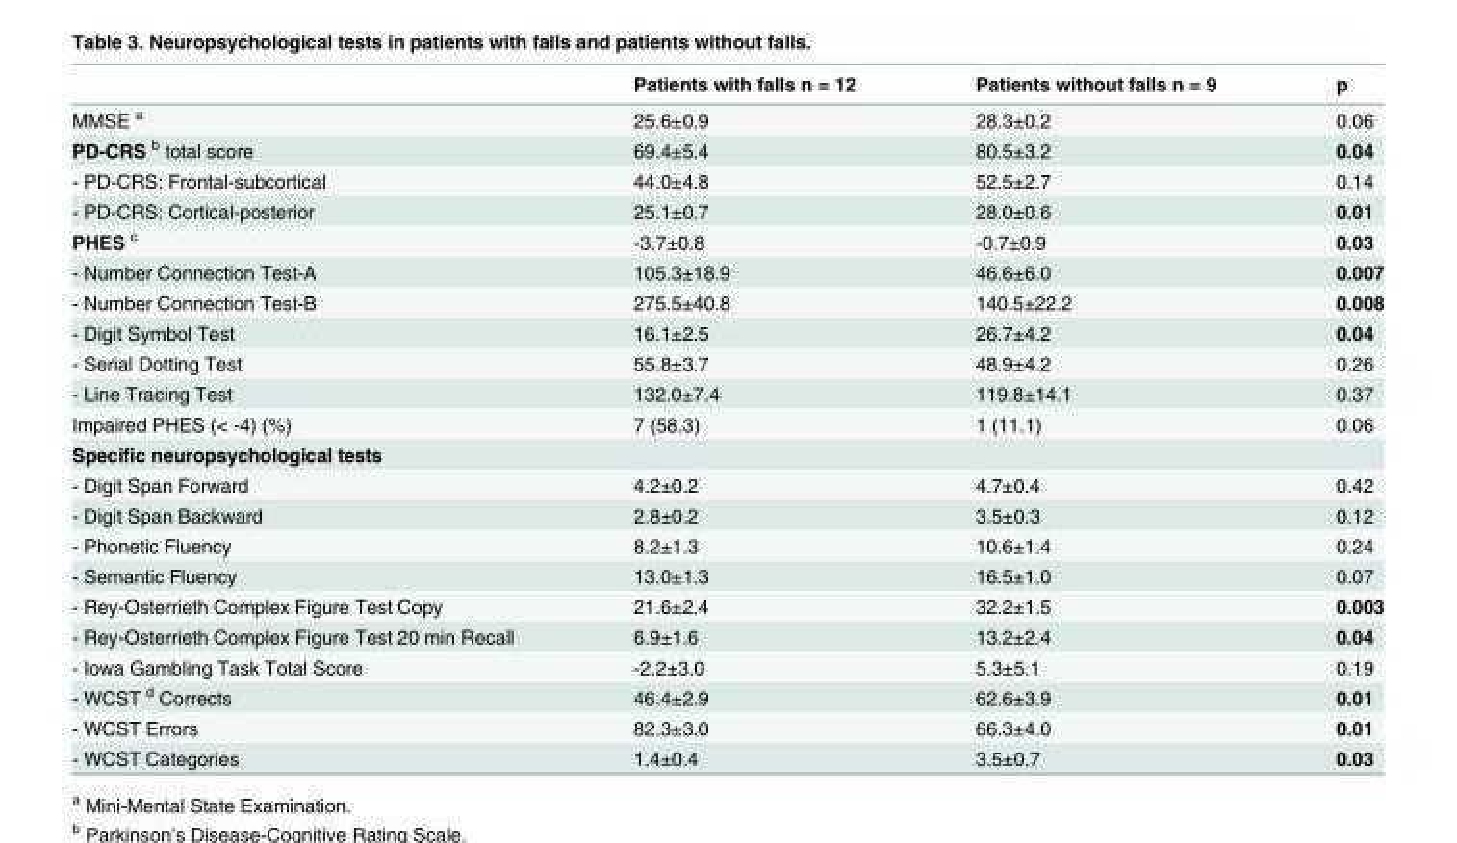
<table><thead><tr><td></td><td>Patients with falls n = 12</td><td>Patients without falls n = 9</td><td>p</td></tr></thead><tbody><tr><td>MMSE <sup>a</sup></td><td>25.6±0.9</td><td>28.3±0.2</td><td>0.06</td></tr><tr><td>PD-CRS <sup>b</sup> total score</td><td>69.4±5.4</td><td>80.5±3.2</td><td>0.04</td></tr><tr><td>- PD-CRS: Frontal-subcortical</td><td>44.0±4.8</td><td>52.5±2.7</td><td>0.14</td></tr><tr><td>- PD-CRS: Cortical-posterior</td><td>25.1±0.7</td><td>28.0±0.6</td><td>0.01</td></tr><tr><td>PHES <sup>c</sup></td><td>-3.7±0.8</td><td>-0.7±0.9</td><td>0.03</td></tr><tr><td>- Number Connection Test-A</td><td>105.3±18.9</td><td>46.6±6.0</td><td>0.007</td></tr><tr><td>- Number Connection Test-B</td><td>275.5±40.8</td><td>140.5±22.2</td><td>0.008</td></tr><tr><td>- Digit Symbol Test</td><td>16.1±2.5</td><td>26.7±4.2</td><td>0.04</td></tr><tr><td>- Serial Dotting Test</td><td>55.8±3.7</td><td>48.9±4.2</td><td>0.26</td></tr><tr><td>- Line Tracing Test</td><td>132.0±7.4</td><td>119.8±14.1</td><td>0.37</td></tr><tr><td>Impaired PHES (&lt; -4) (%)</td><td>7 (58.3)</td><td>1 (11.1)</td><td>0.06</td></tr><tr><td colspan="4">Specific neuropsychological tests</td></tr><tr><td>- Digit Span Forward</td><td>4.2±0.2</td><td>4.7±0.4</td><td>0.42</td></tr><tr><td>- Digit Span Backward</td><td>2.8±0.2</td><td>3.5±0.3</td><td>0.12</td></tr><tr><td>- Phonetic Fluency</td><td>8.2±1.3</td><td>10.6±1.4</td><td>0.24</td></tr><tr><td>- Semantic Fluency</td><td>13.0±1.3</td><td>16.5±1.0</td><td>0.07</td></tr><tr><td>- Rey-Osterrieth Complex Figure Test Copy</td><td>21.6±2.4</td><td>32.2±1.5</td><td>0.003</td></tr><tr><td>- Rey-Osterrieth Complex Figure Test 20 min Recall</td><td>6.9±1.6</td><td>13.2±2.4</td><td>0.04</td></tr><tr><td>- Iowa Gambling Task Total Score</td><td>-2.2±3.0</td><td>5.3±5.1</td><td>0.19</td></tr><tr><td>- WCST <sup>d</sup> Corrects</td><td>46.4±2.9</td><td>62.6±3.9</td><td>0.01</td></tr><tr><td>- WCST Errors</td><td>82.3±3.0</td><td>66.3±4.0</td><td>0.01</td></tr><tr><td>- WCST Categories</td><td>1.4±0.4</td><td>3.5±0.7</td><td>0.03</td></tr></tbody></table>